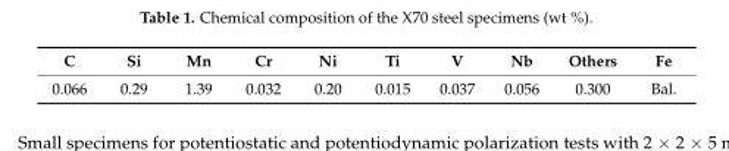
<table><thead><tr><td>C</td><td>Si</td><td>Mn</td><td>Cr</td><td>Ni</td><td>Ti</td><td>V</td><td>Nb</td><td>Others</td><td>Fe</td></tr></thead><tbody><tr><td>0.066</td><td>0.29</td><td>1.39</td><td>0.032</td><td>0.20</td><td>0.015</td><td>0.037</td><td>0.056</td><td>0.300</td><td>Bal.</td></tr></tbody></table>